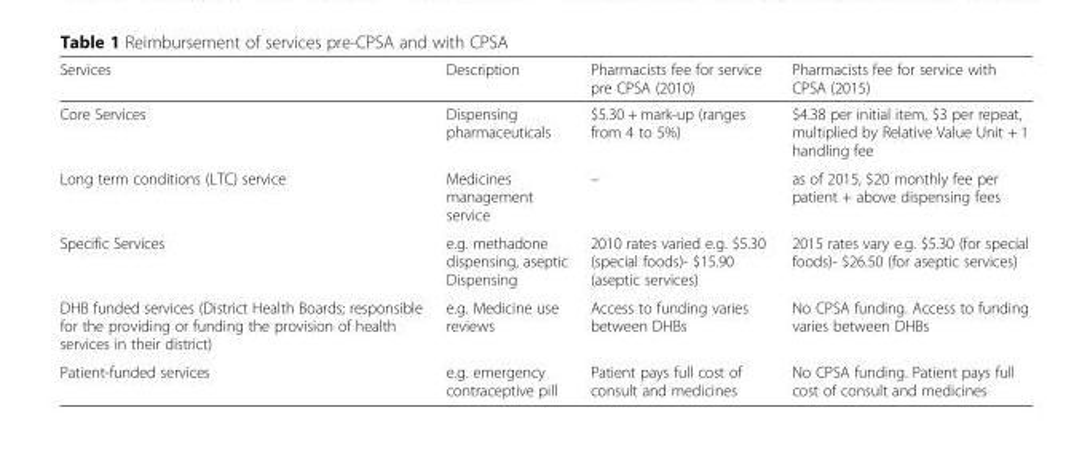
<table><thead><tr><td>Services</td><td>Description</td><td>Pharmacists fee for service pre CPSA (2010)</td><td>Pharmacists fee for service with CPSA (2015)</td></tr></thead><tbody><tr><td>Core Services</td><td>Dispensing pharmaceuticals</td><td>$5.30 + mark-up (ranges from 4 to 5%)</td><td>$4.38 per initial item, $3 per repeat, multiplied by Relative Value Unit + 1 handling fee</td></tr><tr><td>Long term conditions (LTC) service</td><td>Medicines management service</td><td>–</td><td>as of 2015, $20 monthly fee per patient + above dispensing fees</td></tr><tr><td>Specific Services</td><td>e.g. methadone dispensing, aseptic Dispensing</td><td>2010 rates varied e.g. $5.30 (special foods)- $15.90 (aseptic services)</td><td>2015 rates vary e.g. $5.30 (for special foods)- $26.50 (for aseptic services)</td></tr><tr><td>DHB funded services (District Health Boards; responsible for the providing or funding the provision of health services in their district)</td><td>e.g. Medicine use reviews</td><td>Access to funding varies between DHBs</td><td>No CPSA funding. Access to funding varies between DHBs</td></tr><tr><td>Patient-funded services</td><td>e.g. emergency contraceptive pill</td><td>Patient pays full cost of consult and medicines</td><td>No CPSA funding. Patient pays full cost of consult and medicines</td></tr></tbody></table>